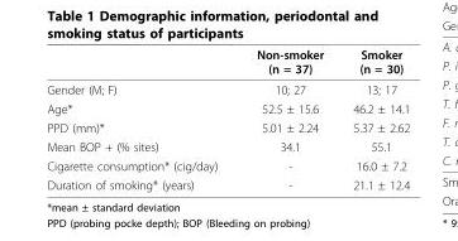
<table><thead><tr><td></td><td>Non-smoker (n = 37)</td><td>Smoker (n = 30)</td></tr></thead><tbody><tr><td>Gender (M; F)</td><td>10; 27</td><td>13; 17</td></tr><tr><td>Age*</td><td>52.5 ± 15.6</td><td>46.2 ± 14.1</td></tr><tr><td>PPD (mm)*</td><td>5.01 ± 2.24</td><td>5.37 ± 2.62</td></tr><tr><td>Mean BOP + (% sites)</td><td>34.1</td><td>55.1</td></tr><tr><td>Cigarette consumption* (cig/day)</td><td>-</td><td>16.0 ± 7.2</td></tr><tr><td>Duration of smoking* (years)</td><td>-</td><td>21.1 ± 12.4</td></tr></tbody></table>